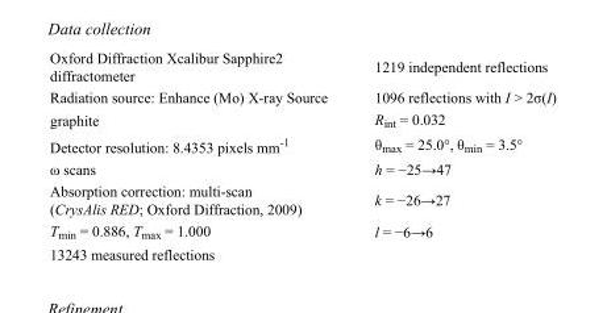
<table><tbody><tr><td>Oxford Diffraction Xcalibur Sapphire2 diffractometer</td><td>1219 independent reflections</td></tr><tr><td>Radiation source: Enhance (Mo) X-ray Source</td><td>1096 reflections with I &gt; 2σ(I)</td></tr><tr><td>graphite</td><td>R<sub>int</sub> = 0.032</td></tr><tr><td>Detector resolution: 8.4353 pixels mm<sup>-1</sup></td><td>θ<sub>max</sub> = 25.0°, θ<sub>min</sub> = 3.5°</td></tr><tr><td>ω scans</td><td>h = −25→47</td></tr><tr><td>Absorption correction: multi-scan (CrysAlis RED; Oxford Diffraction, 2009)</td><td>k = −26→27</td></tr><tr><td>T<sub>min</sub> = 0.886, T<sub>max</sub> = 1.000</td><td>l = −6→6</td></tr><tr><td>13243 measured reflections</td><td></td></tr></tbody></table>